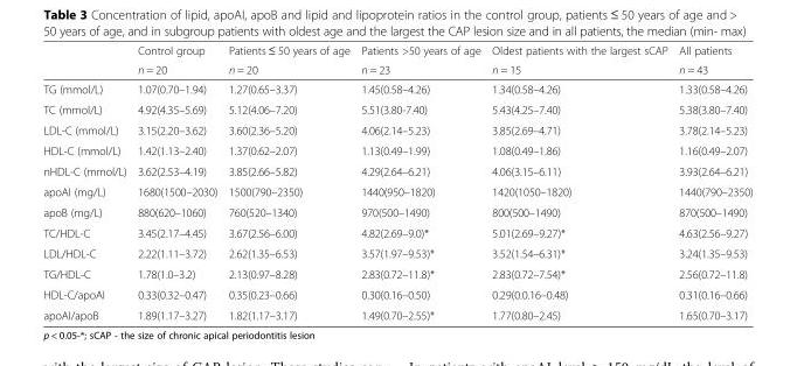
<table><thead><tr><td rowspan="2"></td><td rowspan="2">Control group n = 20</td><td rowspan="2">Patients ≤ 50 years of age n = 20</td><td rowspan="2">Patients &gt;50 years of age n = 23</td><td rowspan="2">Oldest patients with the largest sCAP n = 15</td><td rowspan="2">All patients n = 43</td></tr><tr></tr></thead><tbody><tr><td>TG (mmol/L)</td><td>1.07(0.70–1.94)</td><td>1.27(0.65–3.37)</td><td>1.45(0.58–4.26)</td><td>1.34(0.58–4.26)</td><td>1.33(0.58–4.26)</td></tr><tr><td>TC (mmol/L)</td><td>4.92(4.35–5.69)</td><td>5.12(4.06–7.20)</td><td>5.51(3.80-7.40)</td><td>5.43(4.25–7.40)</td><td>5.38(3.80–7.40)</td></tr><tr><td>LDL-C (mmol/L)</td><td>3.15(2.20–3.62)</td><td>3.60(2.36–5.20)</td><td>4.06(2.14–5.23)</td><td>3.85(2.69–4.71)</td><td>3.78(2.14–5.23)</td></tr><tr><td>HDL-C (mmol/L)</td><td>1.42(1.13–2.40)</td><td>1.37(0.62–2.07)</td><td>1.13(0.49–1.99)</td><td>1.08(0.49–1.86)</td><td>1.16(0.49–2.07)</td></tr><tr><td>nHDL-C (mmol/L)</td><td>3.62(2.53–4.19)</td><td>3.85(2.66–5.82)</td><td>4.29(2.64–6.21)</td><td>4.06(3.15–6.11)</td><td>3.93(2.64–6.21)</td></tr><tr><td>apoAI (mg/L)</td><td>1680(1500–2030)</td><td>1500(790–2350)</td><td>1440(950–1820)</td><td>1420(1050–1820)</td><td>1440(790–2350)</td></tr><tr><td>apoB (mg/L)</td><td>880(620–1060)</td><td>760(520–1340)</td><td>970(500–1490)</td><td>800(500–1490)</td><td>870(500–1490)</td></tr><tr><td>TC/HDL-C</td><td>3.45(2.17–4.45)</td><td>3.67(2.56–6.00)</td><td>4.82(2.69–9.0)*</td><td>5.01(2.69–9.27)*</td><td>4.63(2.56–9.27)</td></tr><tr><td>LDL/HDL-C</td><td>2.22(1.11–3.72)</td><td>2.62(1.35–6.53)</td><td>3.57(1.97–9.53)*</td><td>3.52(1.54–6.31)*</td><td>3.24(1.35–9.53)</td></tr><tr><td>TG/HDL-C</td><td>1.78(1.0–3.2)</td><td>2.13(0.97–8.28)</td><td>2.83(0.72–11.8)*</td><td>2.83(0.72–7.54)*</td><td>2.56(0.72–11.8)</td></tr><tr><td>HDL-C/apoAI</td><td>0.33(0.32–0.47)</td><td>0.35(0.23–0.66)</td><td>0.30(0.16–0.50)</td><td>0.29(0.0.16–0.48)</td><td>0.31(0.16–0.66)</td></tr><tr><td>apoAI/apoB</td><td>1.89(1.17–3.27)</td><td>1.82(1.17–3.17)</td><td>1.49(0.70–2.55)*</td><td>1.77(0.80–2.45)</td><td>1.65(0.70–3.17)</td></tr></tbody></table>